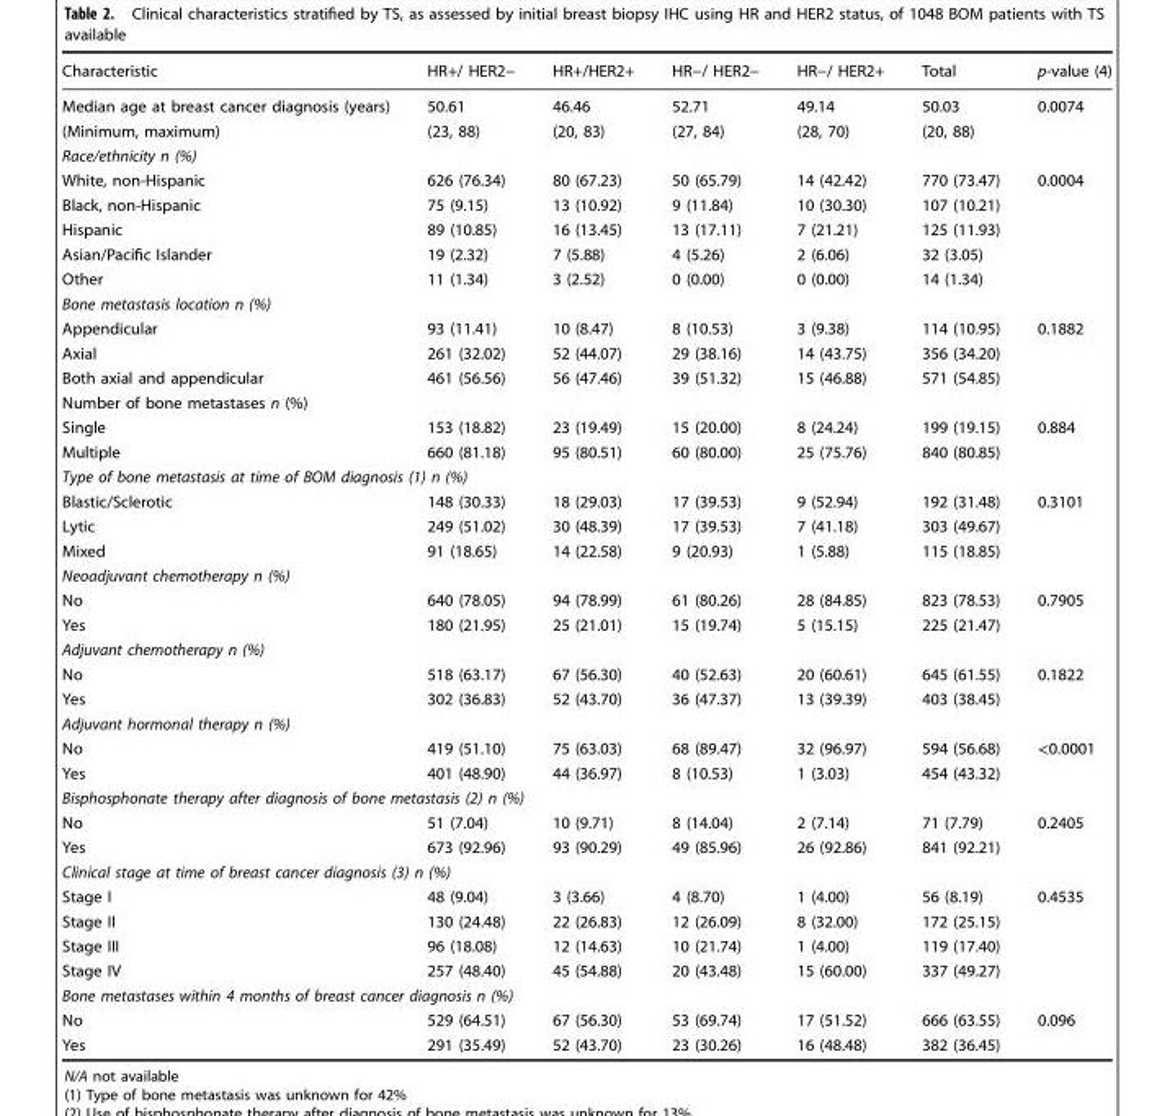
<table><thead><tr><td>Characteristic</td><td>HR+/ HER2−</td><td>HR+/HER2+</td><td>HR−/ HER2−</td><td>HR−/ HER2+</td><td>Total</td><td>p-value (4)</td></tr></thead><tbody><tr><td>Median age at breast cancer diagnosis (years)</td><td>50.61</td><td>46.46</td><td>52.71</td><td>49.14</td><td>50.03</td><td>0.0074</td></tr><tr><td>(Minimum, maximum)</td><td>(23, 88)</td><td>(20, 83)</td><td>(27, 84)</td><td>(28, 70)</td><td>(20, 88)</td><td></td></tr><tr><td colspan="7">Race/ethnicity n (%)</td></tr><tr><td>White, non-Hispanic</td><td>626 (76.34)</td><td>80 (67.23)</td><td>50 (65.79)</td><td>14 (42.42)</td><td>770 (73.47)</td><td rowspan="5">0.0004</td></tr><tr><td>Black, non-Hispanic</td><td>75 (9.15)</td><td>13 (10.92)</td><td>9 (11.84)</td><td>10 (30.30)</td><td>107 (10.21)</td></tr><tr><td>Hispanic</td><td>89 (10.85)</td><td>16 (13.45)</td><td>13 (17.11)</td><td>7 (21.21)</td><td>125 (11.93)</td></tr><tr><td>Asian/Pacific Islander</td><td>19 (2.32)</td><td>7 (5.88)</td><td>4 (5.26)</td><td>2 (6.06)</td><td>32 (3.05)</td></tr><tr><td>Other</td><td>11 (1.34)</td><td>3 (2.52)</td><td>0 (0.00)</td><td>0 (0.00)</td><td>14 (1.34)</td></tr><tr><td colspan="7">Bone metastasis location n (%)</td></tr><tr><td>Appendicular</td><td>93 (11.41)</td><td>10 (8.47)</td><td>8 (10.53)</td><td>3 (9.38)</td><td>114 (10.95)</td><td rowspan="3">0.1882</td></tr><tr><td>Axial</td><td>261 (32.02)</td><td>52 (44.07)</td><td>29 (38.16)</td><td>14 (43.75)</td><td>356 (34.20)</td></tr><tr><td>Both axial and appendicular</td><td>461 (56.56)</td><td>56 (47.46)</td><td>39 (51.32)</td><td>15 (46.88)</td><td>571 (54.85)</td></tr><tr><td colspan="7">Number of bone metastases n (%)</td></tr><tr><td>Single</td><td>153 (18.82)</td><td>23 (19.49)</td><td>15 (20.00)</td><td>8 (24.24)</td><td>199 (19.15)</td><td rowspan="2">0.884</td></tr><tr><td>Multiple</td><td>660 (81.18)</td><td>95 (80.51)</td><td>60 (80.00)</td><td>25 (75.76)</td><td>840 (80.85)</td></tr><tr><td colspan="7">Type of bone metastasis at time of BOM diagnosis (1) n (%)</td></tr><tr><td>Blastic/Sclerotic</td><td>148 (30.33)</td><td>18 (29.03)</td><td>17 (39.53)</td><td>9 (52.94)</td><td>192 (31.48)</td><td rowspan="3">0.3101</td></tr><tr><td>Lytic</td><td>249 (51.02)</td><td>30 (48.39)</td><td>17 (39.53)</td><td>7 (41.18)</td><td>303 (49.67)</td></tr><tr><td>Mixed</td><td>91 (18.65)</td><td>14 (22.58)</td><td>9 (20.93)</td><td>1 (5.88)</td><td>115 (18.85)</td></tr><tr><td colspan="7">Neoadjuvant chemotherapy n (%)</td></tr><tr><td>No</td><td>640 (78.05)</td><td>94 (78.99)</td><td>61 (80.26)</td><td>28 (84.85)</td><td>823 (78.53)</td><td rowspan="2">0.7905</td></tr><tr><td>Yes</td><td>180 (21.95)</td><td>25 (21.01)</td><td>15 (19.74)</td><td>5 (15.15)</td><td>225 (21.47)</td></tr><tr><td colspan="7">Adjuvant chemotherapy n (%)</td></tr><tr><td>No</td><td>518 (63.17)</td><td>67 (56.30)</td><td>40 (52.63)</td><td>20 (60.61)</td><td>645 (61.55)</td><td rowspan="2">0.1822</td></tr><tr><td>Yes</td><td>302 (36.83)</td><td>52 (43.70)</td><td>36 (47.37)</td><td>13 (39.39)</td><td>403 (38.45)</td></tr><tr><td colspan="7">Adjuvant hormonal therapy n (%)</td></tr><tr><td>No</td><td>419 (51.10)</td><td>75 (63.03)</td><td>68 (89.47)</td><td>32 (96.97)</td><td>594 (56.68)</td><td rowspan="2">&lt;0.0001</td></tr><tr><td>Yes</td><td>401 (48.90)</td><td>44 (36.97)</td><td>8 (10.53)</td><td>1 (3.03)</td><td>454 (43.32)</td></tr><tr><td colspan="7">Bisphosphonate therapy after diagnosis of bone metastasis (2) n (%)</td></tr><tr><td>No</td><td>51 (7.04)</td><td>10 (9.71)</td><td>8 (14.04)</td><td>2 (7.14)</td><td>71 (7.79)</td><td rowspan="2">0.2405</td></tr><tr><td>Yes</td><td>673 (92.96)</td><td>93 (90.29)</td><td>49 (85.96)</td><td>26 (92.86)</td><td>841 (92.21)</td></tr><tr><td colspan="7">Clinical stage at time of breast cancer diagnosis (3) n (%)</td></tr><tr><td>Stage I</td><td>48 (9.04)</td><td>3 (3.66)</td><td>4 (8.70)</td><td>1 (4.00)</td><td>56 (8.19)</td><td rowspan="4">0.4535</td></tr><tr><td>Stage II</td><td>130 (24.48)</td><td>22 (26.83)</td><td>12 (26.09)</td><td>8 (32.00)</td><td>172 (25.15)</td></tr><tr><td>Stage III</td><td>96 (18.08)</td><td>12 (14.63)</td><td>10 (21.74)</td><td>1 (4.00)</td><td>119 (17.40)</td></tr><tr><td>Stage IV</td><td>257 (48.40)</td><td>45 (54.88)</td><td>20 (43.48)</td><td>15 (60.00)</td><td>337 (49.27)</td></tr><tr><td colspan="7">Bone metastases within 4 months of breast cancer diagnosis n (%)</td></tr><tr><td>No</td><td>529 (64.51)</td><td>67 (56.30)</td><td>53 (69.74)</td><td>17 (51.52)</td><td>666 (63.55)</td><td rowspan="2">0.096</td></tr><tr><td>Yes</td><td>291 (35.49)</td><td>52 (43.70)</td><td>23 (30.26)</td><td>16 (48.48)</td><td>382 (36.45)</td></tr></tbody></table>